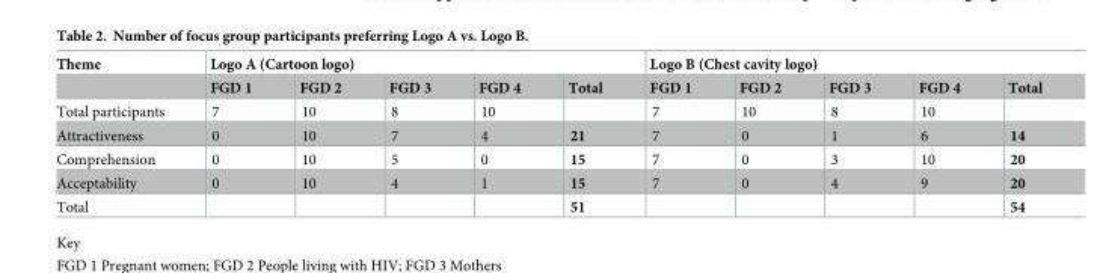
<table><thead><tr><td rowspan="2">Theme</td><td colspan="5">Logo A (Cartoon logo)</td><td colspan="5">Logo B (Chest cavity logo)</td></tr><tr><td>FGD 1</td><td>FGD 2</td><td>FGD 3</td><td>FGD 4</td><td>Total</td><td>FGD 1</td><td>FGD 2</td><td>FGD 3</td><td>FGD 4</td><td>Total</td></tr></thead><tbody><tr><td>Total participants</td><td>7</td><td>10</td><td>8</td><td>10</td><td></td><td>7</td><td>10</td><td>8</td><td>10</td><td></td></tr><tr><td>Attractiveness</td><td>0</td><td>10</td><td>7</td><td>4</td><td>21</td><td>7</td><td>0</td><td>1</td><td>6</td><td>14</td></tr><tr><td>Comprehension</td><td>0</td><td>10</td><td>5</td><td>0</td><td>15</td><td>7</td><td>0</td><td>3</td><td>10</td><td>20</td></tr><tr><td>Acceptability</td><td>0</td><td>10</td><td>4</td><td>1</td><td>15</td><td>7</td><td>0</td><td>4</td><td>9</td><td>20</td></tr><tr><td>Total</td><td></td><td></td><td></td><td></td><td>51</td><td></td><td></td><td></td><td></td><td>54</td></tr></tbody></table>